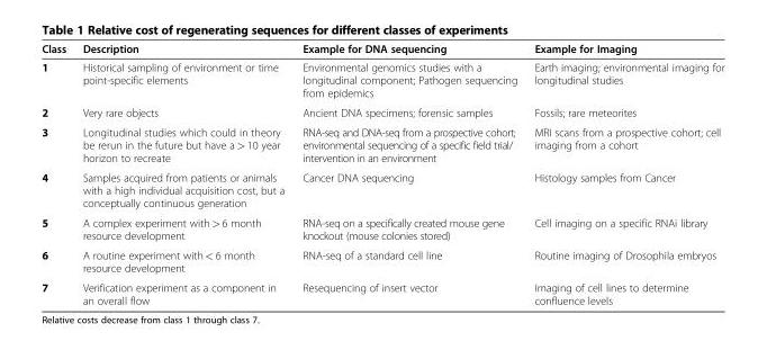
<table><thead><tr><td>Class</td><td>Description</td><td>Example for DNA sequencing</td><td>Example for Imaging</td></tr></thead><tbody><tr><td>1</td><td>Historical sampling of environment or time point-specific elements</td><td>Environmental genomics studies with a longitudinal component; Pathogen sequencing from epidemics</td><td>Earth imaging; environmental imaging for longitudinal studies</td></tr><tr><td>2</td><td>Very rare objects</td><td>Ancient DNA specimens; forensic samples</td><td>Fossils; rare meteorites</td></tr><tr><td>3</td><td>Longitudinal studies which could in theory be rerun in the future but have a &gt; 10 year horizon to recreate</td><td>RNA-seq and DNA-seq from a prospective cohort; environmental sequencing of a specific field trial/ intervention in an environment</td><td>MRI scans from a prospective cohort; cell imaging from a cohort</td></tr><tr><td>4</td><td>Samples acquired from patients or animals with a high individual acquisition cost, but a conceptually continuous generation</td><td>Cancer DNA sequencing</td><td>Histology samples from Cancer</td></tr><tr><td>5</td><td>A complex experiment with &gt; 6 month resource development</td><td>RNA-seq on a specifically created mouse gene knockout (mouse colonies stored)</td><td>Cell imaging on a specific RNAi library</td></tr><tr><td>6</td><td>A routine experiment with &lt; 6 month resource development</td><td>RNA-seq of a standard cell line</td><td>Routine imaging of Drosophila embryos</td></tr><tr><td>7</td><td>Verification experiment as a component in an overall flow</td><td>Resequencing of insert vector</td><td>Imaging of cell lines to determine confluence levels</td></tr></tbody></table>